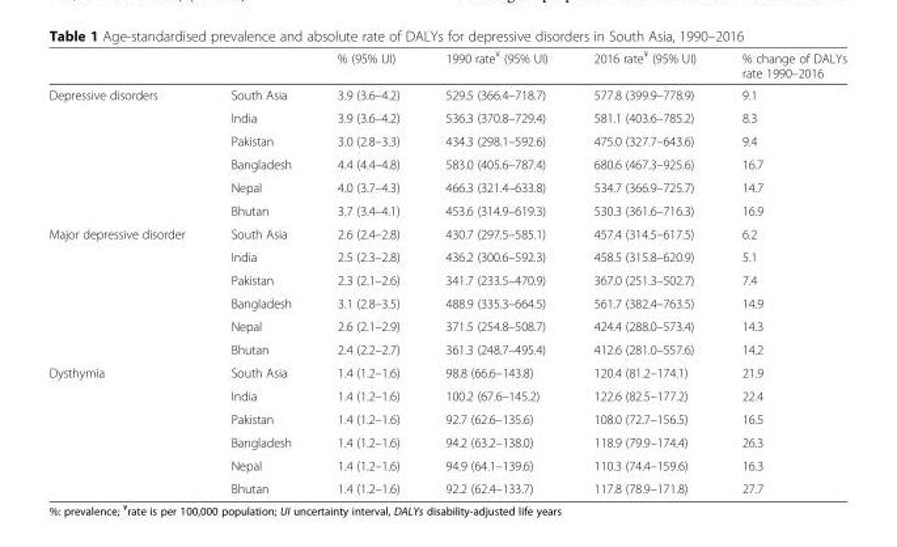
<table><thead><tr><td></td><td></td><td>% (95% UI)</td><td>1990 rate<sup>¥</sup> (95% UI)</td><td>2016 rate<sup>¥</sup> (95% UI)</td><td>% change of DALYs rate 1990–2016</td></tr></thead><tbody><tr><td rowspan="6">Depressive disorders</td><td>South Asia</td><td>3.9 (3.6–4.2)</td><td>529.5 (366.4–718.7)</td><td>577.8 (399.9–778.9)</td><td>9.1</td></tr><tr><td>India</td><td>3.9 (3.6–4.2)</td><td>536.3 (370.8–729.4)</td><td>581.1 (403.6–785.2)</td><td>8.3</td></tr><tr><td>Pakistan</td><td>3.0 (2.8–3.3)</td><td>434.3 (298.1–592.6)</td><td>475.0 (327.7–643.6)</td><td>9.4</td></tr><tr><td>Bangladesh</td><td>4.4 (4.4–4.8)</td><td>583.0 (405.6–787.4)</td><td>680.6 (467.3–925.6)</td><td>16.7</td></tr><tr><td>Nepal</td><td>4.0 (3.7–4.3)</td><td>466.3 (321.4–633.8)</td><td>534.7 (366.9–725.7)</td><td>14.7</td></tr><tr><td>Bhutan</td><td>3.7 (3.4–4.1)</td><td>453.6 (314.9–619.3)</td><td>530.3 (361.6–716.3)</td><td>16.9</td></tr><tr><td rowspan="6">Major depressive disorder</td><td>South Asia</td><td>2.6 (2.4–2.8)</td><td>430.7 (297.5–585.1)</td><td>457.4 (314.5–617.5)</td><td>6.2</td></tr><tr><td>India</td><td>2.5 (2.3–2.8)</td><td>436.2 (300.6–592.3)</td><td>458.5 (315.8–620.9)</td><td>5.1</td></tr><tr><td>Pakistan</td><td>2.3 (2.1–2.6)</td><td>341.7 (233.5–470.9)</td><td>367.0 (251.3–502.7)</td><td>7.4</td></tr><tr><td>Bangladesh</td><td>3.1 (2.8–3.5)</td><td>488.9 (335.3–664.5)</td><td>561.7 (382.4–763.5)</td><td>14.9</td></tr><tr><td>Nepal</td><td>2.6 (2.1–2.9)</td><td>371.5 (254.8–508.7)</td><td>424.4 (288.0–573.4)</td><td>14.3</td></tr><tr><td>Bhutan</td><td>2.4 (2.2–2.7)</td><td>361.3 (248.7–495.4)</td><td>412.6 (281.0–557.6)</td><td>14.2</td></tr><tr><td rowspan="6">Dysthymia</td><td>South Asia</td><td>1.4 (1.2–1.6)</td><td>98.8 (66.6–143.8)</td><td>120.4 (81.2–174.1)</td><td>21.9</td></tr><tr><td>India</td><td>1.4 (1.2–1.6)</td><td>100.2 (67.6–145.2)</td><td>122.6 (82.5–177.2)</td><td>22.4</td></tr><tr><td>Pakistan</td><td>1.4 (1.2–1.6)</td><td>92.7 (62.6–135.6)</td><td>108.0 (72.7–156.5)</td><td>16.5</td></tr><tr><td>Bangladesh</td><td>1.4 (1.2–1.6)</td><td>94.2 (63.2–138.0)</td><td>118.9 (79.9–174.4)</td><td>26.3</td></tr><tr><td>Nepal</td><td>1.4 (1.2–1.6)</td><td>94.9 (64.1–139.6)</td><td>110.3 (74.4–159.6)</td><td>16.3</td></tr><tr><td>Bhutan</td><td>1.4 (1.2–1.6)</td><td>92.2 (62.4–133.7)</td><td>117.8 (78.9–171.8)</td><td>27.7</td></tr></tbody></table>